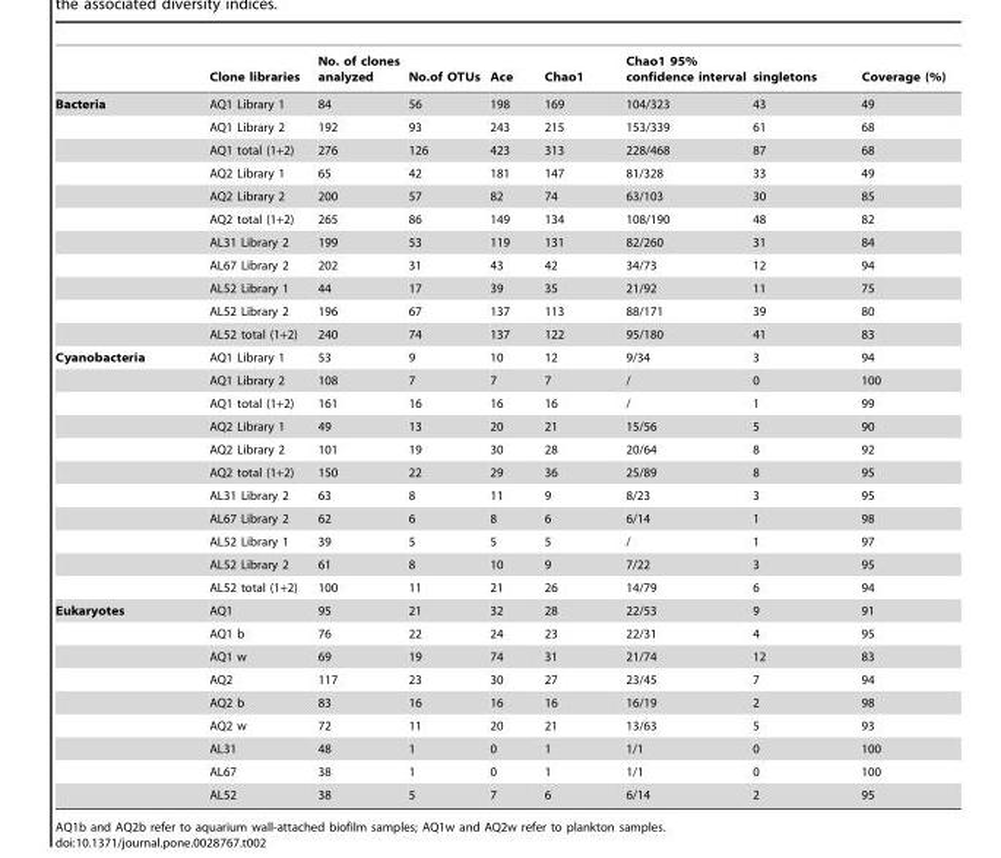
<table><thead><tr><td></td><td>Clone libraries</td><td>No. of clones analyzed</td><td>No.of OTUs</td><td>Ace</td><td>Chao1</td><td>Chao1 95% confidence interval</td><td>singletons</td><td>Coverage (%)</td></tr></thead><tbody><tr><td rowspan="11">Bacteria</td><td>AQ1 Library 1</td><td>84</td><td>56</td><td>198</td><td>169</td><td>104/323</td><td>43</td><td>49</td></tr><tr><td>AQ1 Library 2</td><td>192</td><td>93</td><td>243</td><td>215</td><td>153/339</td><td>61</td><td>68</td></tr><tr><td>AQ1 total (1+2)</td><td>276</td><td>126</td><td>423</td><td>313</td><td>228/468</td><td>87</td><td>68</td></tr><tr><td>AQ2 Library 1</td><td>65</td><td>42</td><td>181</td><td>147</td><td>81/328</td><td>33</td><td>49</td></tr><tr><td>AQ2 Library 2</td><td>200</td><td>57</td><td>82</td><td>74</td><td>63/103</td><td>30</td><td>85</td></tr><tr><td>AQ2 total (1+2)</td><td>265</td><td>86</td><td>149</td><td>134</td><td>108/190</td><td>48</td><td>82</td></tr><tr><td>AL31 Library 2</td><td>199</td><td>53</td><td>119</td><td>131</td><td>82/260</td><td>31</td><td>84</td></tr><tr><td>AL67 Library 2</td><td>202</td><td>31</td><td>43</td><td>42</td><td>34/73</td><td>12</td><td>94</td></tr><tr><td>AL52 Library 1</td><td>44</td><td>17</td><td>39</td><td>35</td><td>21/92</td><td>11</td><td>75</td></tr><tr><td>AL52 Library 2</td><td>196</td><td>67</td><td>137</td><td>113</td><td>88/171</td><td>39</td><td>80</td></tr><tr><td>AL52 total (1+2)</td><td>240</td><td>74</td><td>137</td><td>122</td><td>95/180</td><td>41</td><td>83</td></tr><tr><td rowspan="11">Cyanobacteria</td><td>AQ1 Library 1</td><td>53</td><td>9</td><td>10</td><td>12</td><td>9/34</td><td>3</td><td>94</td></tr><tr><td>AQ1 Library 2</td><td>108</td><td>7</td><td>7</td><td>7</td><td>/</td><td>0</td><td>100</td></tr><tr><td>AQ1 total (1+2)</td><td>161</td><td>16</td><td>16</td><td>16</td><td>/</td><td>1</td><td>99</td></tr><tr><td>AQ2 Library 1</td><td>49</td><td>13</td><td>20</td><td>21</td><td>15/56</td><td>5</td><td>90</td></tr><tr><td>AQ2 Library 2</td><td>101</td><td>19</td><td>30</td><td>28</td><td>20/64</td><td>8</td><td>92</td></tr><tr><td>AQ2 total (1+2)</td><td>150</td><td>22</td><td>29</td><td>36</td><td>25/89</td><td>8</td><td>95</td></tr><tr><td>AL31 Library 2</td><td>63</td><td>8</td><td>11</td><td>9</td><td>8/23</td><td>3</td><td>95</td></tr><tr><td>AL67 Library 2</td><td>62</td><td>6</td><td>8</td><td>6</td><td>6/14</td><td>1</td><td>98</td></tr><tr><td>AL52 Library 1</td><td>39</td><td>5</td><td>5</td><td>5</td><td>/</td><td>1</td><td>97</td></tr><tr><td>AL52 Library 2</td><td>61</td><td>8</td><td>10</td><td>9</td><td>7/22</td><td>3</td><td>95</td></tr><tr><td>AL52 total (1+2)</td><td>100</td><td>11</td><td>21</td><td>26</td><td>14/79</td><td>6</td><td>94</td></tr><tr><td rowspan="9">Eukaryotes</td><td>AQ1</td><td>95</td><td>21</td><td>32</td><td>28</td><td>22/53</td><td>9</td><td>91</td></tr><tr><td>AQ1 b</td><td>76</td><td>22</td><td>24</td><td>23</td><td>22/31</td><td>4</td><td>95</td></tr><tr><td>AQ1 w</td><td>69</td><td>19</td><td>74</td><td>31</td><td>21/74</td><td>12</td><td>83</td></tr><tr><td>AQ2</td><td>117</td><td>23</td><td>30</td><td>27</td><td>23/45</td><td>7</td><td>94</td></tr><tr><td>AQ2 b</td><td>83</td><td>16</td><td>16</td><td>16</td><td>16/19</td><td>2</td><td>98</td></tr><tr><td>AQ2 w</td><td>72</td><td>11</td><td>20</td><td>21</td><td>13/63</td><td>5</td><td>93</td></tr><tr><td>AL31</td><td>48</td><td>1</td><td>0</td><td>1</td><td>1/1</td><td>0</td><td>100</td></tr><tr><td>AL67</td><td>38</td><td>1</td><td>0</td><td>1</td><td>1/1</td><td>0</td><td>100</td></tr><tr><td>AL52</td><td>38</td><td>5</td><td>7</td><td>6</td><td>6/14</td><td>2</td><td>95</td></tr></tbody></table>